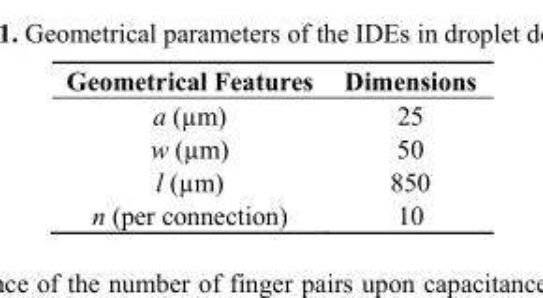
<table><thead><tr><td>Geometrical Features</td><td>Dimensions</td></tr></thead><tbody><tr><td>a (µm)</td><td>25</td></tr><tr><td>w (µm)</td><td>50</td></tr><tr><td>l (µm)</td><td>850</td></tr><tr><td>n (per connection)</td><td>10</td></tr></tbody></table>